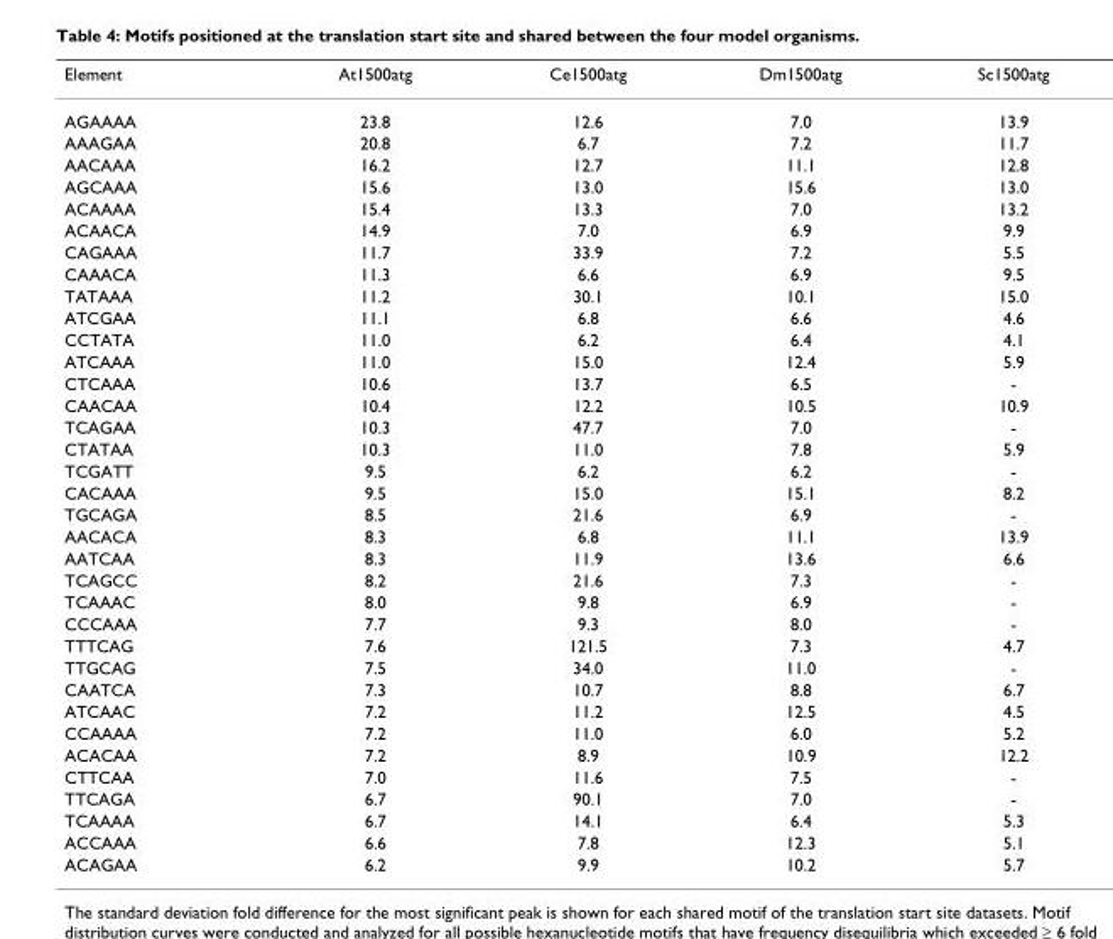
<table><thead><tr><td>Element</td><td>At1500atg</td><td>Ce1500atg</td><td>Dm1500atg</td><td>Sc1500atg</td></tr></thead><tbody><tr><td>AGAAAA</td><td>23.8</td><td>12.6</td><td>7.0</td><td>13.9</td></tr><tr><td>AAAGAA</td><td>20.8</td><td>6.7</td><td>7.2</td><td>11.7</td></tr><tr><td>AACAAA</td><td>16.2</td><td>12.7</td><td>11.1</td><td>12.8</td></tr><tr><td>AGCAAA</td><td>15.6</td><td>13.0</td><td>15.6</td><td>13.0</td></tr><tr><td>ACAAAA</td><td>15.4</td><td>13.3</td><td>7.0</td><td>13.2</td></tr><tr><td>ACAACA</td><td>14.9</td><td>7.0</td><td>6.9</td><td>9.9</td></tr><tr><td>CAGAAA</td><td>11.7</td><td>33.9</td><td>7.2</td><td>5.5</td></tr><tr><td>CAAACA</td><td>11.3</td><td>6.6</td><td>6.9</td><td>9.5</td></tr><tr><td>TATAAA</td><td>11.2</td><td>30.1</td><td>10.1</td><td>15.0</td></tr><tr><td>ATCGAA</td><td>11.1</td><td>6.8</td><td>6.6</td><td>4.6</td></tr><tr><td>CCTATA</td><td>11.0</td><td>6.2</td><td>6.4</td><td>4.1</td></tr><tr><td>ATCAAA</td><td>11.0</td><td>15.0</td><td>12.4</td><td>5.9</td></tr><tr><td>CTCAAA</td><td>10.6</td><td>13.7</td><td>6.5</td><td>-</td></tr><tr><td>CAACAA</td><td>10.4</td><td>12.2</td><td>10.5</td><td>10.9</td></tr><tr><td>TCAGAA</td><td>10.3</td><td>47.7</td><td>7.0</td><td>-</td></tr><tr><td>CTATAA</td><td>10.3</td><td>11.0</td><td>7.8</td><td>5.9</td></tr><tr><td>TCGATT</td><td>9.5</td><td>6.2</td><td>6.2</td><td>-</td></tr><tr><td>CACAAA</td><td>9.5</td><td>15.0</td><td>15.1</td><td>8.2</td></tr><tr><td>TGCAGA</td><td>8.5</td><td>21.6</td><td>6.9</td><td>-</td></tr><tr><td>AACACA</td><td>8.3</td><td>6.8</td><td>11.1</td><td>13.9</td></tr><tr><td>AATCAA</td><td>8.3</td><td>11.9</td><td>13.6</td><td>6.6</td></tr><tr><td>TCAGCC</td><td>8.2</td><td>21.6</td><td>7.3</td><td>-</td></tr><tr><td>TCAAAC</td><td>8.0</td><td>9.8</td><td>6.9</td><td>-</td></tr><tr><td>CCCAAA</td><td>7.7</td><td>9.3</td><td>8.0</td><td>-</td></tr><tr><td>TTTCAG</td><td>7.6</td><td>121.5</td><td>7.3</td><td>4.7</td></tr><tr><td>TTGCAG</td><td>7.5</td><td>34.0</td><td>11.0</td><td>-</td></tr><tr><td>CAATCA</td><td>7.3</td><td>10.7</td><td>8.8</td><td>6.7</td></tr><tr><td>ATCAAC</td><td>7.2</td><td>11.2</td><td>12.5</td><td>4.5</td></tr><tr><td>CCAAAA</td><td>7.2</td><td>11.0</td><td>6.0</td><td>5.2</td></tr><tr><td>ACACAA</td><td>7.2</td><td>8.9</td><td>10.9</td><td>12.2</td></tr><tr><td>CTTCAA</td><td>7.0</td><td>11.6</td><td>7.5</td><td>-</td></tr><tr><td>TTCAGA</td><td>6.7</td><td>90.1</td><td>7.0</td><td>-</td></tr><tr><td>TCAAAA</td><td>6.7</td><td>14.1</td><td>6.4</td><td>5.3</td></tr><tr><td>ACCAAA</td><td>6.6</td><td>7.8</td><td>12.3</td><td>5.1</td></tr><tr><td>ACAGAA</td><td>6.2</td><td>9.9</td><td>10.2</td><td>5.7</td></tr></tbody></table>